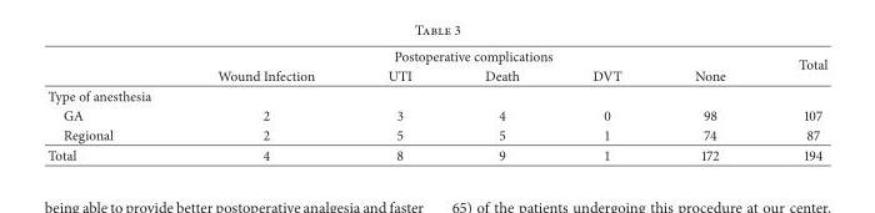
<table><thead><tr><td rowspan="2"></td><td colspan="5">Postoperative complications</td><td rowspan="2">Total</td></tr><tr><td>Wound Infection</td><td>UTI</td><td>Death</td><td>DVT</td><td>None</td></tr></thead><tbody><tr><td colspan="7">Type of anesthesia</td></tr><tr><td>GA</td><td>2</td><td>3</td><td>4</td><td>0</td><td>98</td><td>107</td></tr><tr><td>Regional</td><td>2</td><td>5</td><td>5</td><td>1</td><td>74</td><td>87</td></tr><tr><td>Total</td><td>4</td><td>8</td><td>9</td><td>1</td><td>172</td><td>194</td></tr></tbody></table>